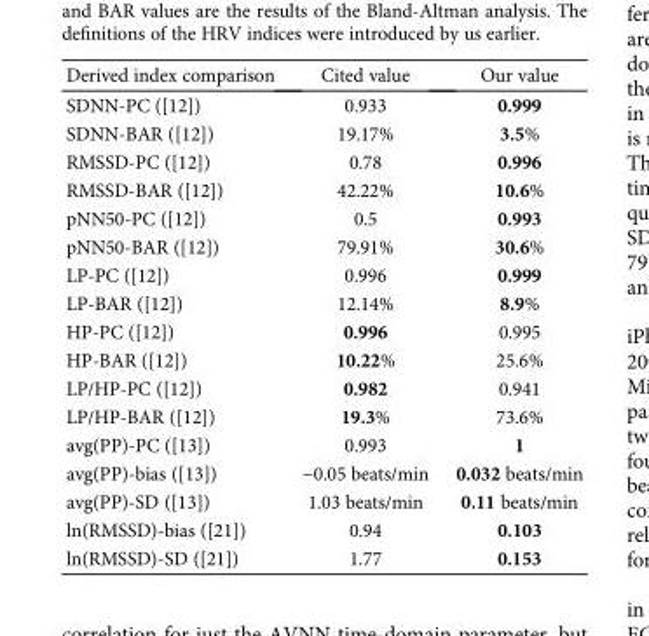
<table><thead><tr><td>Derived index comparison</td><td>Cited value</td><td>Our value</td></tr></thead><tbody><tr><td>SDNN-PC ([12])</td><td>0.933</td><td>0.999</td></tr><tr><td>SDNN-BAR ([12])</td><td>19.17%</td><td>3.5%</td></tr><tr><td>RMSSD-PC ([12])</td><td>0.78</td><td>0.996</td></tr><tr><td>RMSSD-BAR ([12])</td><td>42.22%</td><td>10.6%</td></tr><tr><td>pNN50-PC ([12])</td><td>0.5</td><td>0.993</td></tr><tr><td>pNN50-BAR ([12])</td><td>79.91%</td><td>30.6%</td></tr><tr><td>LP-PC ([12])</td><td>0.996</td><td>0.999</td></tr><tr><td>LP-BAR ([12])</td><td>12.14%</td><td>8.9%</td></tr><tr><td>HP-PC ([12])</td><td>0.996</td><td>0.995</td></tr><tr><td>HP-BAR ([12])</td><td>10.22%</td><td>25.6%</td></tr><tr><td>LP/HP-PC ([12])</td><td>0.982</td><td>0.941</td></tr><tr><td>LP/HP-BAR ([12])</td><td>19.3%</td><td>73.6%</td></tr><tr><td>avg(PP)-PC ([13])</td><td>0.993</td><td>1</td></tr><tr><td>avg(PP)-bias ([13])</td><td>−0.05 beats/min</td><td>0.032 beats/min</td></tr><tr><td>avg(PP)-SD ([13])</td><td>1.03 beats/min</td><td>0.11 beats/min</td></tr><tr><td>ln(RMSSD)-bias ([21])</td><td>0.94</td><td>0.103</td></tr><tr><td>ln(RMSSD)-SD ([21])</td><td>1.77</td><td>0.153</td></tr></tbody></table>